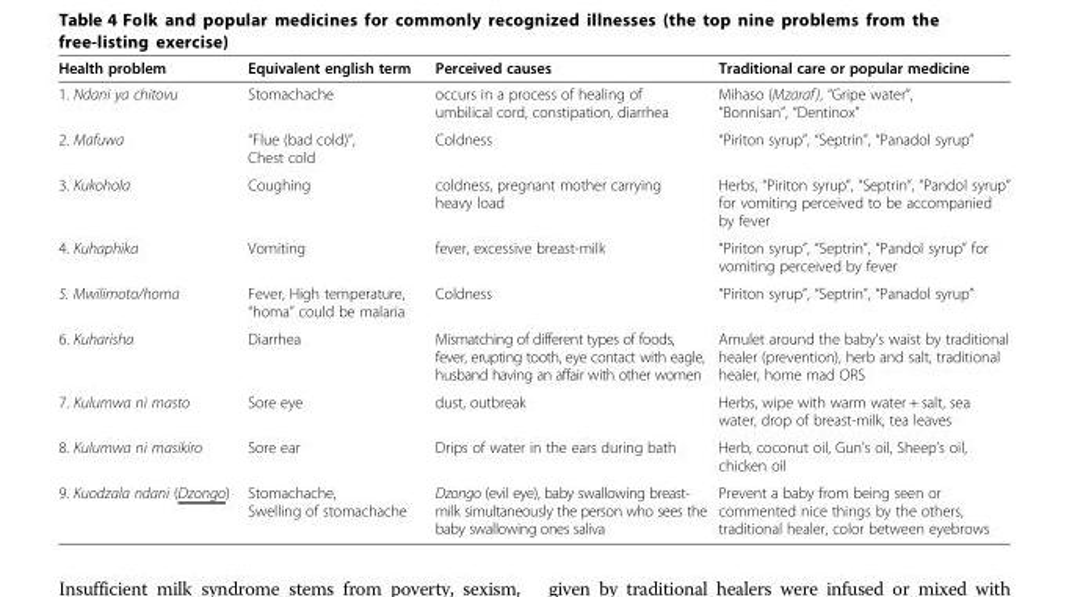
<table><thead><tr><td>Health problem</td><td>Equivalent english term</td><td>Perceived causes</td><td>Traditional care or popular medicine</td></tr></thead><tbody><tr><td>1. Ndani ya chitovu</td><td>Stomachache</td><td>occurs in a process of healing of umbilical cord, constipation, diarrhea</td><td>Mihaso (Mzaraf), “Gripe water”, “Bonnisan”, “Dentinox”</td></tr><tr><td>2. Mafuwa</td><td>“Flue (bad cold)”, Chest cold</td><td>Coldness</td><td>“Piriton syrup”, “Septrin”, “Panadol syrup”</td></tr><tr><td>3. Kukohola</td><td>Coughing</td><td>coldness, pregnant mother carrying heavy load</td><td>Herbs, “Piriton syrup”, “Septrin”, “Pandol syrup” for vomiting perceived to be accompanied by fever</td></tr><tr><td>4. Kuhaphika</td><td>Vomiting</td><td>fever, excessive breast-milk</td><td>“Piriton syrup”, “Septrin”, “Pandol syrup” for vomiting perceived by fever</td></tr><tr><td>5. Mwilimoto/homa</td><td>Fever, High temperature, “homa” could be malaria</td><td>Coldness</td><td>“Piriton syrup”, “Septrin”, “Panadol syrup”</td></tr><tr><td>6. Kuharisha</td><td>Diarrhea</td><td>Mismatching of different types of foods, fever, erupting tooth, eye contact with eagle, husband having an affair with other women</td><td>Amulet around the baby’s waist by traditional healer (prevention), herb and salt, traditional healer, home mad ORS</td></tr><tr><td>7. Kulumwa ni masto</td><td>Sore eye</td><td>dust, outbreak</td><td>Herbs, wipe with warm water + salt, sea water, drop of breast-milk, tea leaves</td></tr><tr><td>8. Kulumwa ni masikiro</td><td>Sore ear</td><td>Drips of water in the ears during bath</td><td>Herb, coconut oil, Gun’s oil, Sheep’s oil, chicken oil</td></tr><tr><td>9. Kuodzala ndani (Dzongo)</td><td>Stomachache, Swelling of stomachache</td><td>Dzongo (evil eye), baby swallowing breast- milk simultaneously the person who sees the baby swallowing ones saliva</td><td>Prevent a baby from being seen or commented nice things by the others, traditional healer, color between eyebrows</td></tr></tbody></table>